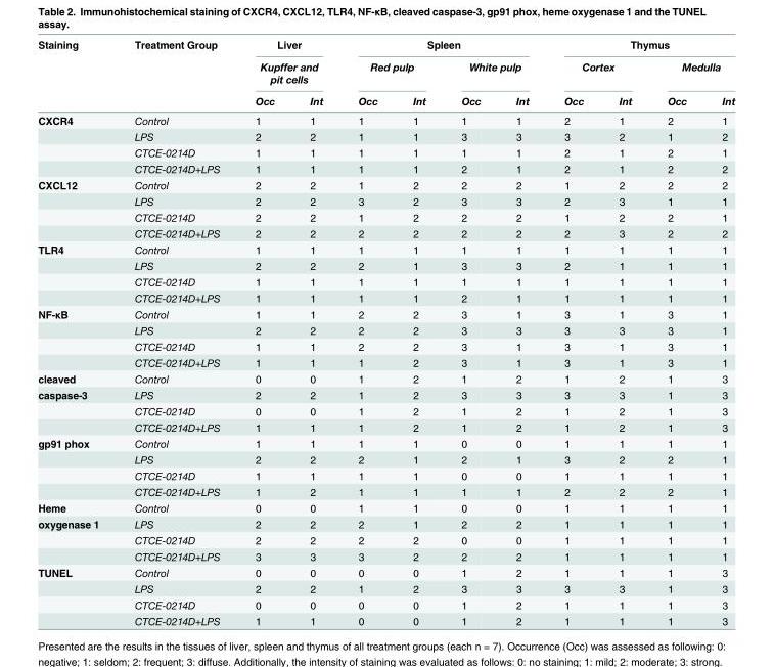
<table><thead><tr><td rowspan="3">Staining</td><td rowspan="3">Treatment Group</td><td rowspan="2" colspan="2">Liver Kupffer and pit cells</td><td colspan="4">Spleen</td><td colspan="4">Thymus</td></tr><tr><td colspan="2">Red pulp</td><td colspan="2">White pulp</td><td colspan="2">Cortex</td><td colspan="2">Medulla</td></tr><tr><td>Occ</td><td>Int</td><td>Occ</td><td>Int</td><td>Occ</td><td>Int</td><td>Occ</td><td>Int</td><td>Occ</td><td>Int</td></tr></thead><tbody><tr><td rowspan="4">CXCR4</td><td>Control</td><td>1</td><td>1</td><td>1</td><td>1</td><td>1</td><td>1</td><td>2</td><td>1</td><td>2</td><td>1</td></tr><tr><td>LPS</td><td>2</td><td>2</td><td>1</td><td>1</td><td>3</td><td>3</td><td>3</td><td>2</td><td>1</td><td>2</td></tr><tr><td>CTCE-0214D</td><td>1</td><td>1</td><td>1</td><td>1</td><td>1</td><td>1</td><td>2</td><td>1</td><td>2</td><td>1</td></tr><tr><td>CTCE-0214D+LPS</td><td>1</td><td>1</td><td>1</td><td>1</td><td>2</td><td>1</td><td>2</td><td>1</td><td>2</td><td>2</td></tr><tr><td rowspan="4">CXCL12</td><td>Control</td><td>2</td><td>2</td><td>1</td><td>2</td><td>2</td><td>2</td><td>1</td><td>2</td><td>2</td><td>2</td></tr><tr><td>LPS</td><td>2</td><td>2</td><td>3</td><td>2</td><td>3</td><td>3</td><td>2</td><td>3</td><td>1</td><td>1</td></tr><tr><td>CTCE-0214D</td><td>2</td><td>2</td><td>1</td><td>2</td><td>2</td><td>2</td><td>1</td><td>2</td><td>2</td><td>1</td></tr><tr><td>CTCE-0214D+LPS</td><td>2</td><td>2</td><td>2</td><td>2</td><td>2</td><td>2</td><td>2</td><td>3</td><td>2</td><td>2</td></tr><tr><td rowspan="4">TLR4</td><td>Control</td><td>1</td><td>1</td><td>1</td><td>1</td><td>1</td><td>1</td><td>1</td><td>1</td><td>1</td><td>1</td></tr><tr><td>LPS</td><td>2</td><td>2</td><td>2</td><td>1</td><td>3</td><td>3</td><td>2</td><td>1</td><td>1</td><td>1</td></tr><tr><td>CTCE-0214D</td><td>1</td><td>1</td><td>1</td><td>1</td><td>1</td><td>1</td><td>1</td><td>1</td><td>1</td><td>1</td></tr><tr><td>CTCE-0214D+LPS</td><td>1</td><td>1</td><td>1</td><td>1</td><td>2</td><td>1</td><td>1</td><td>1</td><td>1</td><td>1</td></tr><tr><td rowspan="4">NF-κB</td><td>Control</td><td>1</td><td>1</td><td>2</td><td>2</td><td>3</td><td>1</td><td>3</td><td>1</td><td>3</td><td>1</td></tr><tr><td>LPS</td><td>2</td><td>2</td><td>2</td><td>2</td><td>3</td><td>3</td><td>3</td><td>3</td><td>3</td><td>1</td></tr><tr><td>CTCE-0214D</td><td>1</td><td>1</td><td>2</td><td>2</td><td>3</td><td>1</td><td>3</td><td>1</td><td>3</td><td>1</td></tr><tr><td>CTCE-0214D+LPS</td><td>1</td><td>1</td><td>1</td><td>2</td><td>3</td><td>1</td><td>3</td><td>1</td><td>3</td><td>1</td></tr><tr><td>cleaved</td><td>Control</td><td>0</td><td>0</td><td>1</td><td>2</td><td>1</td><td>2</td><td>1</td><td>2</td><td>1</td><td>3</td></tr><tr><td rowspan="3">caspase-3</td><td>LPS</td><td>2</td><td>2</td><td>1</td><td>2</td><td>3</td><td>3</td><td>3</td><td>3</td><td>1</td><td>3</td></tr><tr><td>CTCE-0214D</td><td>0</td><td>0</td><td>1</td><td>2</td><td>1</td><td>2</td><td>1</td><td>2</td><td>1</td><td>3</td></tr><tr><td>CTCE-0214D+LPS</td><td>1</td><td>1</td><td>1</td><td>2</td><td>1</td><td>2</td><td>1</td><td>2</td><td>1</td><td>3</td></tr><tr><td rowspan="4">gp91 phox</td><td>Control</td><td>1</td><td>1</td><td>1</td><td>1</td><td>0</td><td>0</td><td>1</td><td>1</td><td>1</td><td>1</td></tr><tr><td>LPS</td><td>2</td><td>2</td><td>2</td><td>1</td><td>2</td><td>1</td><td>3</td><td>2</td><td>2</td><td>1</td></tr><tr><td>CTCE-0214D</td><td>1</td><td>1</td><td>1</td><td>1</td><td>0</td><td>0</td><td>1</td><td>1</td><td>1</td><td>1</td></tr><tr><td>CTCE-0214D+LPS</td><td>1</td><td>2</td><td>1</td><td>1</td><td>1</td><td>1</td><td>2</td><td>2</td><td>2</td><td>1</td></tr><tr><td>Heme</td><td>Control</td><td>0</td><td>0</td><td>1</td><td>1</td><td>0</td><td>0</td><td>1</td><td>1</td><td>1</td><td>1</td></tr><tr><td rowspan="3">oxygenase 1</td><td>LPS</td><td>2</td><td>2</td><td>2</td><td>1</td><td>2</td><td>2</td><td>1</td><td>1</td><td>1</td><td>1</td></tr><tr><td>CTCE-0214D</td><td>2</td><td>2</td><td>2</td><td>2</td><td>0</td><td>0</td><td>1</td><td>1</td><td>1</td><td>1</td></tr><tr><td>CTCE-0214D+LPS</td><td>3</td><td>3</td><td>3</td><td>2</td><td>2</td><td>2</td><td>1</td><td>1</td><td>1</td><td>1</td></tr><tr><td rowspan="4">TUNEL</td><td>Control</td><td>0</td><td>0</td><td>0</td><td>0</td><td>1</td><td>2</td><td>1</td><td>1</td><td>1</td><td>3</td></tr><tr><td>LPS</td><td>2</td><td>2</td><td>1</td><td>2</td><td>3</td><td>3</td><td>3</td><td>3</td><td>1</td><td>3</td></tr><tr><td>CTCE-0214D</td><td>0</td><td>0</td><td>0</td><td>0</td><td>1</td><td>2</td><td>1</td><td>1</td><td>1</td><td>3</td></tr><tr><td>CTCE-0214D+LPS</td><td>1</td><td>1</td><td>0</td><td>0</td><td>1</td><td>2</td><td>1</td><td>1</td><td>1</td><td>3</td></tr></tbody></table>